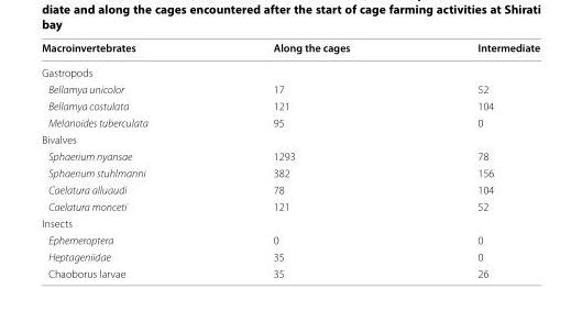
<table><thead><tr><td>Macroinvertebrates</td><td>Along the cages</td><td>Intermediate</td></tr></thead><tbody><tr><td colspan="3">Gastropods</td></tr><tr><td>Bellamya unicolor</td><td>17</td><td>52</td></tr><tr><td>Bellamya costulata</td><td>121</td><td>104</td></tr><tr><td>Melanoides tuberculata</td><td>95</td><td>0</td></tr><tr><td colspan="3">Bivalves</td></tr><tr><td>Sphaerium nyansae</td><td>1293</td><td>78</td></tr><tr><td>Sphaerium stuhlmanni</td><td>382</td><td>156</td></tr><tr><td>Caelatura alluaudi</td><td>78</td><td>104</td></tr><tr><td>Caelatura monceti</td><td>121</td><td>52</td></tr><tr><td colspan="3">Insects</td></tr><tr><td>Ephemeroptera</td><td>0</td><td>0</td></tr><tr><td>Heptageniidae</td><td>35</td><td>0</td></tr><tr><td>Chaoborus larvae</td><td>35</td><td>26</td></tr></tbody></table>